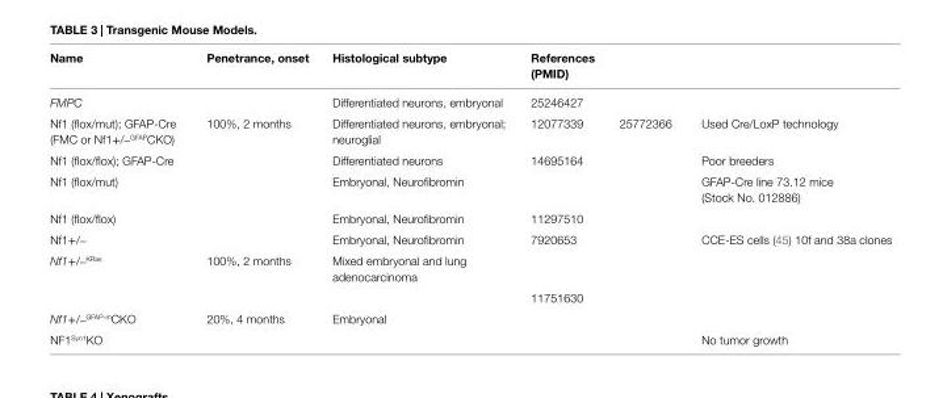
<table><thead><tr><td>Name</td><td>Penetrance, onset</td><td>Histological subtype</td><td>References (PMiD)</td><td></td><td></td></tr></thead><tbody><tr><td>FMPC</td><td></td><td>Differentiated neurons, embryonal</td><td>25246427</td><td></td><td></td></tr><tr><td>Nf1 (flox/mut); GFAP-Cre (FMC or Nf1+/–<sup>GFAP</sup>CKO)</td><td>100%, 2 months</td><td>Differentiated neurons, embryonal; neuroglial</td><td>12077339</td><td>25772366</td><td>Used Cre/LoxP technology</td></tr><tr><td>Nf1 (flox/flox); GFAP-Cre</td><td></td><td>Differentiated neurons</td><td>14695164</td><td></td><td>Poor breeders</td></tr><tr><td>Nf1 (flox/mut)</td><td></td><td>Embryonal, Neurofibromin</td><td></td><td></td><td>GFAP-Cre line 73.12 mice (Stock No. 012886)</td></tr><tr><td>Nf1 (flox/flox)</td><td></td><td>Embryonal, Neurofibromin</td><td>11297510</td><td></td><td></td></tr><tr><td>Nf1+/–</td><td></td><td>Embryonal, Neurofibromin</td><td>7920653</td><td></td><td>CCE-ES cells (45) 10f and 38a clones</td></tr><tr><td rowspan="2">Nf1+/–<sup>KRas</sup></td><td>100%, 2 months</td><td>Mixed embryonal and lung adenocarcinoma</td><td></td><td></td><td></td></tr><tr><td></td><td></td><td>11751630</td><td></td><td></td></tr><tr><td>Nf1+/–<sup>GFAP-m</sup>CKO</td><td>20%, 4 months</td><td>Embryonal</td><td></td><td></td><td></td></tr><tr><td>NF1<sup>Syn1</sup>KO</td><td></td><td></td><td></td><td></td><td>No tumor growth</td></tr></tbody></table>